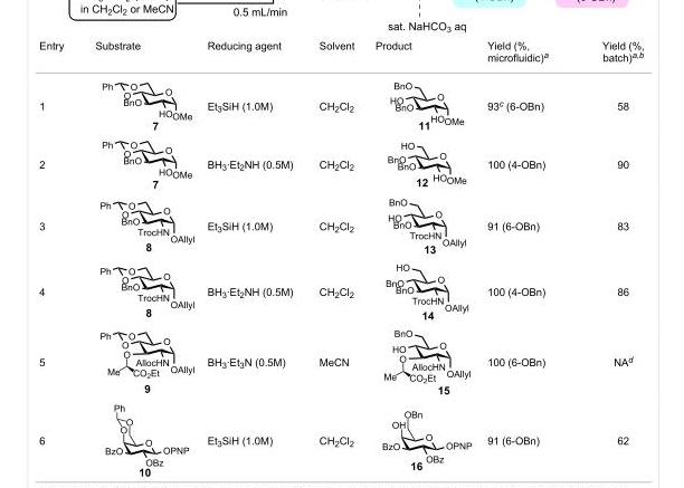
<table><tbody><tr><td>Entry</td><td>Substrate</td><td>Reducing agent</td><td>Solvent</td><td>Product</td><td>Yield (%, microfluidic)<sup>a</sup></td><td>Yield (%, batch)<sup>a,b</sup></td></tr><tr><td>1</td><td></td><td>Et<sub>3</sub>SiH (1.0M)</td><td>CH<sub>2</sub>Cl<sub>2</sub></td><td></td><td>93<sup>c</sup> (6-OBn)</td><td>58</td></tr><tr><td>2</td><td></td><td>BH<sub>3</sub>·Et<sub>2</sub>NH (0.5M)</td><td>CH<sub>2</sub>Cl<sub>2</sub></td><td></td><td>100 (4-OBn)</td><td>90</td></tr><tr><td>3</td><td></td><td>Et<sub>3</sub>SiH (1.0M)</td><td>CH<sub>2</sub>Cl<sub>2</sub></td><td></td><td>91 (6-OBn)</td><td>83</td></tr><tr><td>4</td><td></td><td>BH<sub>3</sub>·Et<sub>2</sub>NH (0.5M)</td><td>CH<sub>2</sub>Cl<sub>2</sub></td><td></td><td>100 (4-OBn)</td><td>86</td></tr><tr><td>5</td><td></td><td>BH<sub>3</sub>·Et<sub>3</sub>N (0.5M)</td><td>MeCN</td><td></td><td>100 (6-OBn)</td><td>NA<sup>d</sup></td></tr><tr><td>6</td><td></td><td>Et<sub>3</sub>SiH (1.0M)</td><td>CH<sub>2</sub>Cl<sub>2</sub></td><td></td><td>91 (6-OBn)</td><td>62</td></tr></tbody></table>